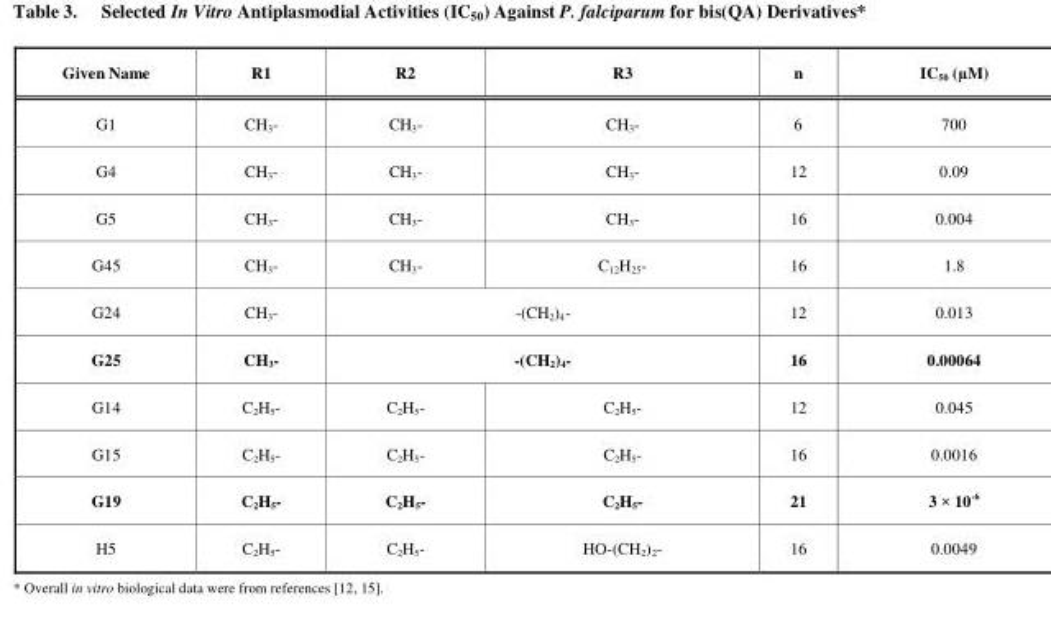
<table><thead><tr><td>Given Name</td><td>R1</td><td>R2</td><td>R3</td><td>n</td><td>IC<sub>50</sub> (µM)</td></tr></thead><tbody><tr><td>G1</td><td>CH<sub>3</sub><sup><sub>-</sub></sup></td><td>CH<sub>3</sub><sup><sub>-</sub></sup></td><td>CH<sub>3</sub><sup><sub>-</sub></sup></td><td>6</td><td>700</td></tr><tr><td>G4</td><td>CH<sub>3</sub><sup><sub>-</sub></sup></td><td>CH<sub>3</sub><sup><sub>-</sub></sup></td><td>CH<sub>3</sub><sup><sub>-</sub></sup></td><td>12</td><td>0.09</td></tr><tr><td>G5</td><td>CH<sub>3</sub><sup><sub>-</sub></sup></td><td>CH<sub>3</sub><sup><sub>-</sub></sup></td><td>CH<sub>3</sub><sup><sub>-</sub></sup></td><td>16</td><td>0.004</td></tr><tr><td>G45</td><td>CH<sub>3</sub><sup><sub>-</sub></sup></td><td>CH<sub>3</sub><sup><sub>-</sub></sup></td><td>C<sub>12</sub>H<sub>25</sub><sup><sub>-</sub></sup></td><td>16</td><td>1.8</td></tr><tr><td>G24</td><td>CH<sub>3</sub><sup><sub>-</sub></sup></td><td colspan="2">-(CH<sub>2</sub>)<sub>4</sub><sup><sub>-</sub></sup></td><td>12</td><td>0.013</td></tr><tr><td>G25</td><td>CH<sub>3</sub><sup><sub>-</sub></sup></td><td colspan="2">-(CH<sub>2</sub>)<sub>4</sub><sup><sub>-</sub></sup></td><td>16</td><td>0.00064</td></tr><tr><td>G14</td><td>C<sub>2</sub>H<sub>5</sub><sup><sub>-</sub></sup></td><td>C<sub>2</sub>H<sub>5</sub><sup><sub>-</sub></sup></td><td>C<sub>2</sub>H<sub>5</sub><sup><sub>-</sub></sup></td><td>12</td><td>0.045</td></tr><tr><td>G15</td><td>C<sub>2</sub>H<sub>5</sub><sup><sub>-</sub></sup></td><td>C<sub>2</sub>H<sub>5</sub><sup><sub>-</sub></sup></td><td>C<sub>2</sub>H<sub>5</sub><sup><sub>-</sub></sup></td><td>16</td><td>0.0016</td></tr><tr><td>G19</td><td>C<sub>2</sub>H<sub>5</sub><sup><sub>-</sub></sup></td><td>C<sub>2</sub>H<sub>5</sub><sup><sub>-</sub></sup></td><td>C<sub>2</sub>H<sub>5</sub><sup><sub>-</sub></sup></td><td>21</td><td>3 × 10<sup>-6</sup></td></tr><tr><td>H5</td><td>C<sub>2</sub>H<sub>5</sub><sup><sub>-</sub></sup></td><td>C<sub>2</sub>H<sub>5</sub><sup><sub>-</sub></sup></td><td>HO-(CH<sub>2</sub>)<sub>2</sub><sup><sub>-</sub></sup></td><td>16</td><td>0.0049</td></tr></tbody></table>